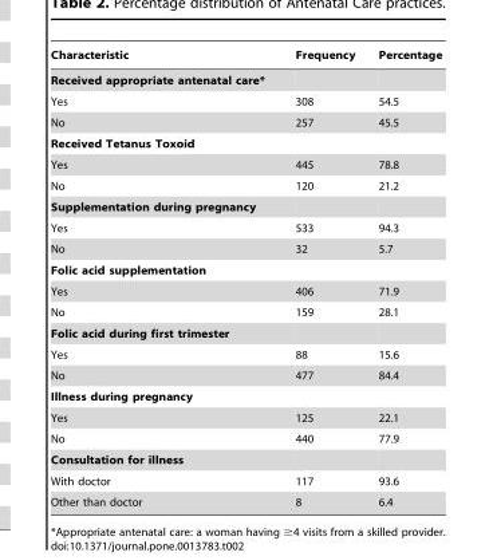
<table><thead><tr><td>Characteristic</td><td>Frequency</td><td>Percentage</td></tr></thead><tbody><tr><td colspan="3">Received appropriate antenatal care*</td></tr><tr><td>Yes</td><td>308</td><td>54.5</td></tr><tr><td>No</td><td>257</td><td>45.5</td></tr><tr><td colspan="3">Received Tetanus Toxoid</td></tr><tr><td>Yes</td><td>445</td><td>78.8</td></tr><tr><td>No</td><td>120</td><td>21.2</td></tr><tr><td colspan="3">Supplementation during pregnancy</td></tr><tr><td>Yes</td><td>533</td><td>94.3</td></tr><tr><td>No</td><td>32</td><td>5.7</td></tr><tr><td colspan="3">Folic acid supplementation</td></tr><tr><td>Yes</td><td>406</td><td>71.9</td></tr><tr><td>No</td><td>159</td><td>28.1</td></tr><tr><td colspan="3">Folic acid during first trimester</td></tr><tr><td>Yes</td><td>88</td><td>15.6</td></tr><tr><td>No</td><td>477</td><td>84.4</td></tr><tr><td colspan="3">Illness during pregnancy</td></tr><tr><td>Yes</td><td>125</td><td>22.1</td></tr><tr><td>No</td><td>440</td><td>77.9</td></tr><tr><td colspan="3">Consultation for illness</td></tr><tr><td>With doctor</td><td>117</td><td>93.6</td></tr><tr><td>Other than doctor</td><td>8</td><td>6.4</td></tr></tbody></table>